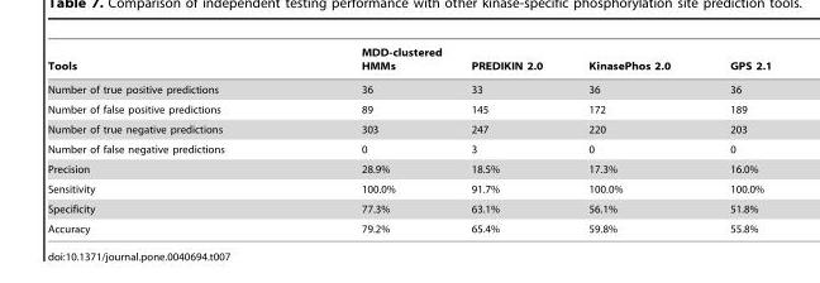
<table><thead><tr><td>Tools</td><td>MDD-clustered HMMs</td><td>PREDIKIN 2.0</td><td>KinasePhos 2.0</td><td>GPS 2.1</td></tr></thead><tbody><tr><td>Number of true positive predictions</td><td>36</td><td>33</td><td>36</td><td>36</td></tr><tr><td>Number of false positive predictions</td><td>89</td><td>145</td><td>172</td><td>189</td></tr><tr><td>Number of true negative predictions</td><td>303</td><td>247</td><td>220</td><td>203</td></tr><tr><td>Number of false negative predictions</td><td>0</td><td>3</td><td>0</td><td>0</td></tr><tr><td>Precision</td><td>28.9%</td><td>18.5%</td><td>17.3%</td><td>16.0%</td></tr><tr><td>Sensitivity</td><td>100.0%</td><td>91.7%</td><td>100.0%</td><td>100.0%</td></tr><tr><td>Specificity</td><td>77.3%</td><td>63.1%</td><td>56.1%</td><td>51.8%</td></tr><tr><td>Accuracy</td><td>79.2%</td><td>65.4%</td><td>59.8%</td><td>55.8%</td></tr></tbody></table>